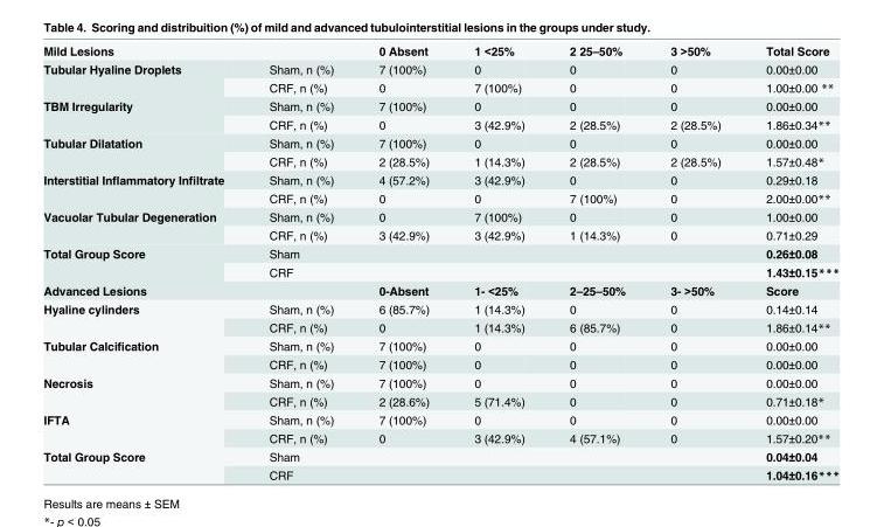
<table><tbody><tr><td>Mild Lesions</td><td></td><td>0 Absent</td><td>1 &lt;25%</td><td>2 25–50%</td><td>3 &gt;50%</td><td>Total Score</td></tr><tr><td rowspan="2">Tubular Hyaline Droplets</td><td>Sham, n (%)</td><td>7 (100%)</td><td>0</td><td>0</td><td>0</td><td>0.00±0.00</td></tr><tr><td>CRF, n (%)</td><td>0</td><td>7 (100%)</td><td>0</td><td>0</td><td>1.00±0.00 **</td></tr><tr><td rowspan="2">TBM Irregularity</td><td>Sham, n (%)</td><td>7 (100%)</td><td>0</td><td>0</td><td>0</td><td>0.00±0.00</td></tr><tr><td>CRF, n (%)</td><td>0</td><td>3 (42.9%)</td><td>2 (28.5%)</td><td>2 (28.5%)</td><td>1.86±0.34**</td></tr><tr><td rowspan="2">Tubular Dilatation</td><td>Sham, n (%)</td><td>7 (100%)</td><td>0</td><td>0</td><td>0</td><td>0.00±0.00</td></tr><tr><td>CRF, n (%)</td><td>2 (28.5%)</td><td>1 (14.3%)</td><td>2 (28.5%)</td><td>2 (28.5%)</td><td>1.57±0.48*</td></tr><tr><td rowspan="2">Interstitial Inflammatory Infiltrate</td><td>Sham, n (%)</td><td>4 (57.2%)</td><td>3 (42.9%)</td><td>0</td><td>0</td><td>0.29±0.18</td></tr><tr><td>CRF, n (%)</td><td>0</td><td>0</td><td>7 (100%)</td><td>0</td><td>2.00±0.00**</td></tr><tr><td rowspan="2">Vacuolar Tubular Degeneration</td><td>Sham, n (%)</td><td>0</td><td>7 (100%)</td><td>0</td><td>0</td><td>1.00±0.00</td></tr><tr><td>CRF, n (%)</td><td>3 (42.9%)</td><td>3 (42.9%)</td><td>1 (14.3%)</td><td>0</td><td>0.71±0.29</td></tr><tr><td rowspan="2">Total Group Score</td><td>Sham</td><td colspan="4"></td><td>0.26±0.08</td></tr><tr><td>CRF</td><td colspan="4"></td><td>1.43±0.15***</td></tr><tr><td>Advanced Lesions</td><td></td><td>0-Absent</td><td>1- &lt;25%</td><td>2–25–50%</td><td>3- &gt;50%</td><td>Score</td></tr><tr><td rowspan="2">Hyaline cylinders</td><td>Sham, n (%)</td><td>6 (85.7%)</td><td>1 (14.3%)</td><td>0</td><td>0</td><td>0.14±0.14</td></tr><tr><td>CRF, n (%)</td><td>0</td><td>1 (14.3%)</td><td>6 (85.7%)</td><td>0</td><td>1.86±0.14**</td></tr><tr><td rowspan="2">Tubular Calcification</td><td>Sham, n (%)</td><td>7 (100%)</td><td>0</td><td>0</td><td>0</td><td>0.00±0.00</td></tr><tr><td>CRF, n (%)</td><td>7 (100%)</td><td>0</td><td>0</td><td>0</td><td>0.00±0.00</td></tr><tr><td rowspan="2">Necrosis</td><td>Sham, n (%)</td><td>7 (100%)</td><td>0</td><td>0</td><td>0</td><td>0.00±0.00</td></tr><tr><td>CRF, n (%)</td><td>2 (28.6%)</td><td>5 (71.4%)</td><td>0</td><td>0</td><td>0.71±0.18*</td></tr><tr><td rowspan="2">IFTA</td><td>Sham, n (%)</td><td>7 (100%)</td><td>0</td><td>0</td><td>0</td><td>0.00±0.00</td></tr><tr><td>CRF, n (%)</td><td>0</td><td>3 (42.9%)</td><td>4 (57.1%)</td><td>0</td><td>1.57±0.20**</td></tr><tr><td rowspan="2">Total Group Score</td><td>Sham</td><td colspan="4"></td><td>0.04±0.04</td></tr><tr><td>CRF</td><td colspan="4"></td><td>1.04±0.16***</td></tr></tbody></table>